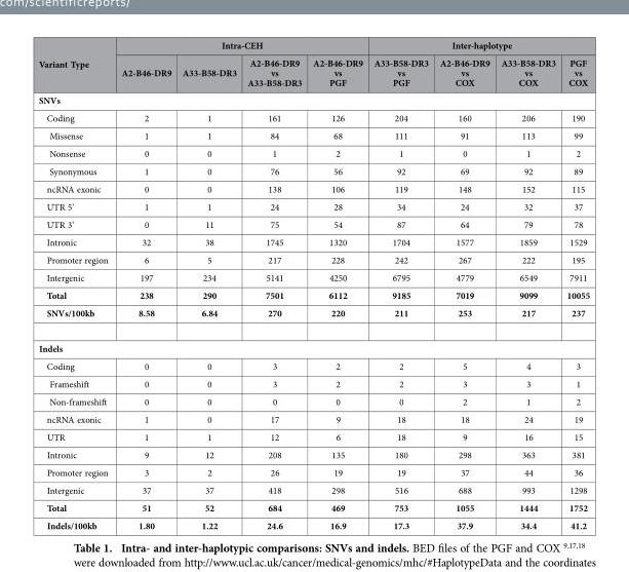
<table><thead><tr><td rowspan="2">Variant Type</td><td colspan="4">Intra-CEH</td><td colspan="4">Inter-haplotype</td></tr><tr><td>A2-B46-DR9</td><td>A33-B58-DR3</td><td>A2-B46-DR9 vs A33-B58-DR3</td><td>A2-B46-DR9 vs PGF</td><td>A33-B58-DR3 vs PGF</td><td>A2-B46-DR9 vs COX</td><td>A33-B58-DR3 vs COX</td><td>PGF vs COX</td></tr></thead><tbody><tr><td colspan="9">SNVs</td></tr><tr><td>Coding</td><td>2</td><td>1</td><td>161</td><td>126</td><td>204</td><td>160</td><td>206</td><td>190</td></tr><tr><td>Missense</td><td>1</td><td>1</td><td>84</td><td>68</td><td>111</td><td>91</td><td>113</td><td>99</td></tr><tr><td>Nonsense</td><td>0</td><td>0</td><td>1</td><td>2</td><td>1</td><td>0</td><td>1</td><td>2</td></tr><tr><td>Synonymous</td><td>1</td><td>0</td><td>76</td><td>56</td><td>92</td><td>69</td><td>92</td><td>89</td></tr><tr><td>ncRNA exonic</td><td>0</td><td>0</td><td>138</td><td>106</td><td>119</td><td>148</td><td>152</td><td>115</td></tr><tr><td>UTR 5’</td><td>1</td><td>1</td><td>24</td><td>28</td><td>34</td><td>24</td><td>32</td><td>37</td></tr><tr><td>UTR 3’</td><td>0</td><td>11</td><td>75</td><td>54</td><td>87</td><td>64</td><td>79</td><td>78</td></tr><tr><td>Intronic</td><td>32</td><td>38</td><td>1745</td><td>1320</td><td>1704</td><td>1577</td><td>1859</td><td>1529</td></tr><tr><td>Promoter region</td><td>6</td><td>5</td><td>217</td><td>228</td><td>242</td><td>267</td><td>222</td><td>195</td></tr><tr><td>Intergenic</td><td>197</td><td>234</td><td>5141</td><td>4250</td><td>6795</td><td>4779</td><td>6549</td><td>7911</td></tr><tr><td>Total</td><td>238</td><td>290</td><td>7501</td><td>6112</td><td>9185</td><td>7019</td><td>9099</td><td>10055</td></tr><tr><td>SNVs/100kb</td><td>8.58</td><td>6.84</td><td>270</td><td>220</td><td>211</td><td>253</td><td>217</td><td>237</td></tr><tr><td colspan="9">Indels</td></tr><tr><td>Coding</td><td>0</td><td>0</td><td>3</td><td>2</td><td>2</td><td>5</td><td>4</td><td>3</td></tr><tr><td>Frameshift</td><td>0</td><td>0</td><td>3</td><td>2</td><td>2</td><td>3</td><td>3</td><td>1</td></tr><tr><td>Non-frameshift</td><td>0</td><td>0</td><td>0</td><td>0</td><td>0</td><td>2</td><td>1</td><td>2</td></tr><tr><td>ncRNA exonic</td><td>1</td><td>0</td><td>17</td><td>9</td><td>18</td><td>18</td><td>24</td><td>19</td></tr><tr><td>UTR</td><td>1</td><td>1</td><td>12</td><td>6</td><td>18</td><td>9</td><td>16</td><td>15</td></tr><tr><td>Intronic</td><td>9</td><td>12</td><td>208</td><td>135</td><td>180</td><td>298</td><td>363</td><td>381</td></tr><tr><td>Promoter region</td><td>3</td><td>2</td><td>26</td><td>19</td><td>19</td><td>37</td><td>44</td><td>36</td></tr><tr><td>Intergenic</td><td>37</td><td>37</td><td>418</td><td>298</td><td>516</td><td>688</td><td>993</td><td>1298</td></tr><tr><td>Total</td><td>51</td><td>52</td><td>684</td><td>469</td><td>753</td><td>1055</td><td>1444</td><td>1752</td></tr><tr><td>Indels/100kb</td><td>1.80</td><td>1.22</td><td>24.6</td><td>16.9</td><td>17.3</td><td>37.9</td><td>34.4</td><td>41.2</td></tr></tbody></table>